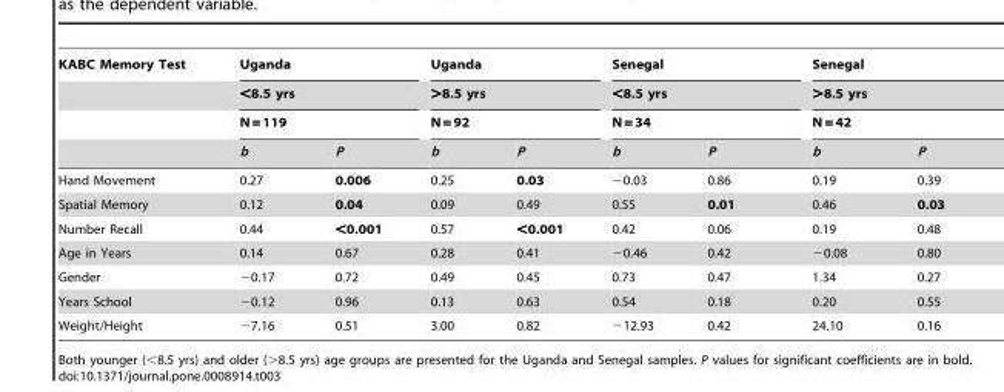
<table><thead><tr><td rowspan="4">KABC Memory Test</td><td rowspan="3" colspan="2">Uganda ,8.5 yrs N == 119</td><td rowspan="3" colspan="2">Uganda .8.5 yrs N == 92</td><td rowspan="3" colspan="2">Senegal ,8.5 yrs N == 34</td><td rowspan="3" colspan="2">Senegal .8.5 yrs N == 42</td></tr><tr></tr><tr></tr><tr><td>b</td><td>P</td><td>b</td><td>P</td><td>b</td><td>P</td><td>b</td><td>P</td></tr></thead><tbody><tr><td>Hand Movement</td><td>0.27</td><td>0.006</td><td>0.25</td><td>0.03</td><td>−0.03</td><td>0.86</td><td>0.19</td><td>0.39</td></tr><tr><td>Spatial Memory</td><td>0.12</td><td>0.04</td><td>0.09</td><td>0.49</td><td>0.55</td><td>0.01</td><td>0.46</td><td>0.03</td></tr><tr><td>Number Recall</td><td>0.44</td><td>&lt;0.001</td><td>0.57</td><td>&lt;0.001</td><td>0.42</td><td>0.06</td><td>0.19</td><td>0.48</td></tr><tr><td>Age in Years</td><td>0.14</td><td>0.67</td><td>0.28</td><td>0.41</td><td>−0.46</td><td>0.42</td><td>−0.08</td><td>0.80</td></tr><tr><td>Gender</td><td>−0.17</td><td>0.72</td><td>0.49</td><td>0.45</td><td>0.73</td><td>0.47</td><td>1.34</td><td>0.27</td></tr><tr><td>Years School</td><td>−0.12</td><td>0.96</td><td>0.13</td><td>0.63</td><td>0.54</td><td>0.18</td><td>0.20</td><td>0.55</td></tr><tr><td>Weight/Height</td><td>−7.16</td><td>0.51</td><td>3.00</td><td>0.82</td><td>−12.93</td><td>0.42</td><td>24.10</td><td>0.16</td></tr></tbody></table>